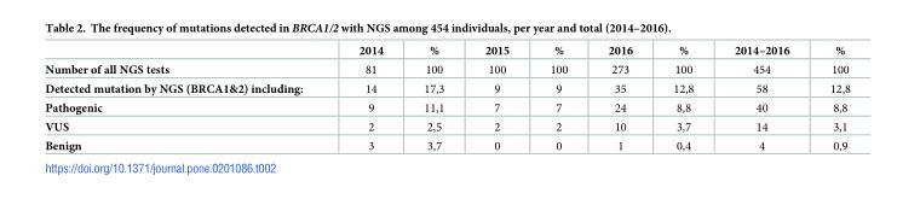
<table><thead><tr><td></td><td>2014</td><td>%</td><td>2015</td><td>%</td><td>2016</td><td>%</td><td>2014–2016</td><td>%</td></tr></thead><tbody><tr><td>Number of all NGS tests</td><td>81</td><td>100</td><td>100</td><td>100</td><td>273</td><td>100</td><td>454</td><td>100</td></tr><tr><td>Detected mutation by NGS (BRCA1&amp;2) including:</td><td>14</td><td>17,3</td><td>9</td><td>9</td><td>35</td><td>12,8</td><td>58</td><td>12,8</td></tr><tr><td>Pathogenic</td><td>9</td><td>11,1</td><td>7</td><td>7</td><td>24</td><td>8,8</td><td>40</td><td>8,8</td></tr><tr><td>VUS</td><td>2</td><td>2,5</td><td>2</td><td>2</td><td>10</td><td>3,7</td><td>14</td><td>3,1</td></tr><tr><td>Benign</td><td>3</td><td>3,7</td><td>0</td><td>0</td><td>1</td><td>0,4</td><td>4</td><td>0,9</td></tr></tbody></table>